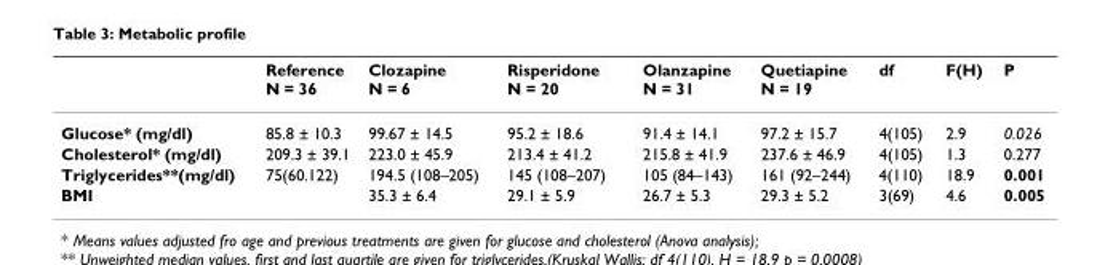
<table><thead><tr><td></td><td>Reference N = 36</td><td>Clozapine N = 6</td><td>Risperidone N = 20</td><td>Olanzapine N = 31</td><td>Quetiapine N = 19</td><td>df</td><td>F(H)</td><td>P</td></tr></thead><tbody><tr><td>Glucose* (mg/dl)</td><td>85.8 ± 10.3</td><td>99.67 ± 14.5</td><td>95.2 ± 18.6</td><td>91.4 ± 14.1</td><td>97.2 ± 15.7</td><td>4(105)</td><td>2.9</td><td>0.026</td></tr><tr><td>Cholesterol* (mg/dl)</td><td>209.3 ± 39.1</td><td>223.0 ± 45.9</td><td>213.4 ± 41.2</td><td>215.8 ± 41.9</td><td>237.6 ± 46.9</td><td>4(105)</td><td>1.3</td><td>0.277</td></tr><tr><td>Triglycerides**(mg/dl)</td><td>75(60.122)</td><td>194.5 (108–205)</td><td>145 (108–207)</td><td>105 (84–143)</td><td>161 (92–244)</td><td>4(110)</td><td>18.9</td><td>0.001</td></tr><tr><td>BMI</td><td></td><td>35.3 ± 6.4</td><td>29.1 ± 5.9</td><td>26.7 ± 5.3</td><td>29.3 ± 5.2</td><td>3(69)</td><td>4.6</td><td>0.005</td></tr></tbody></table>